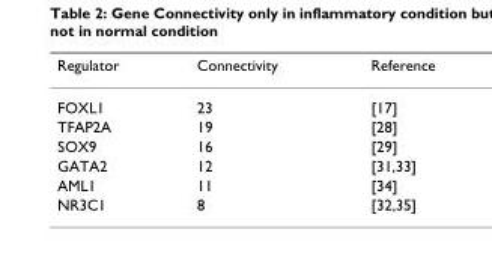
<table><thead><tr><td>Regulator</td><td>Connectivity</td><td>Reference</td></tr></thead><tbody><tr><td>FOXL1</td><td>23</td><td>[17]</td></tr><tr><td>TFAP2A</td><td>19</td><td>[28]</td></tr><tr><td>SOX9</td><td>16</td><td>[29]</td></tr><tr><td>GATA2</td><td>12</td><td>[31,33]</td></tr><tr><td>AML1</td><td>11</td><td>[34]</td></tr><tr><td>NR3C1</td><td>8</td><td>[32,35]</td></tr></tbody></table>